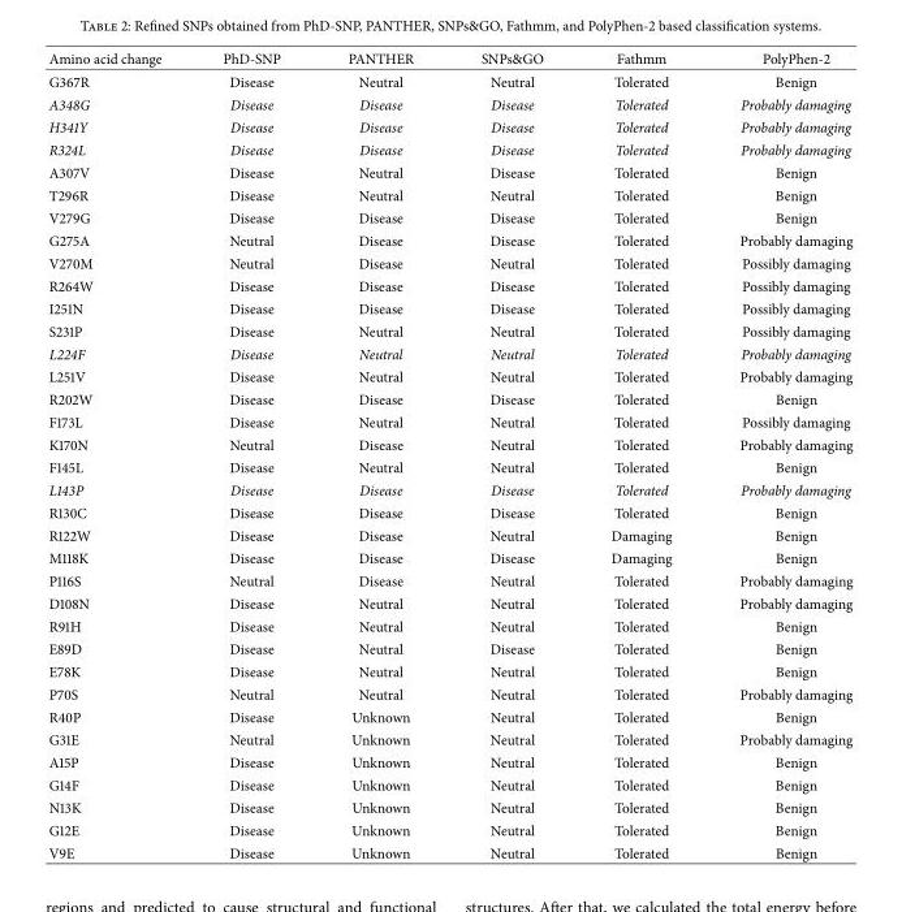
<table><thead><tr><td>Amino acid change</td><td>PhD-SNP</td><td>PANTHER</td><td>SNPs&amp;GO</td><td>Fathmm</td><td>PolyPhen-2</td></tr></thead><tbody><tr><td>G367R</td><td>Disease</td><td>Neutral</td><td>Neutral</td><td>Tolerated</td><td>Benign</td></tr><tr><td>A348G</td><td>Disease</td><td>Disease</td><td>Disease</td><td>Tolerated</td><td>Probably damaging</td></tr><tr><td>H341Y</td><td>Disease</td><td>Disease</td><td>Disease</td><td>Tolerated</td><td>Probably damaging</td></tr><tr><td>R324L</td><td>Disease</td><td>Disease</td><td>Disease</td><td>Tolerated</td><td>Probably damaging</td></tr><tr><td>A307V</td><td>Disease</td><td>Neutral</td><td>Disease</td><td>Tolerated</td><td>Benign</td></tr><tr><td>T296R</td><td>Disease</td><td>Neutral</td><td>Neutral</td><td>Tolerated</td><td>Benign</td></tr><tr><td>V279G</td><td>Disease</td><td>Disease</td><td>Disease</td><td>Tolerated</td><td>Benign</td></tr><tr><td>G275A</td><td>Neutral</td><td>Disease</td><td>Disease</td><td>Tolerated</td><td>Probably damaging</td></tr><tr><td>V270M</td><td>Neutral</td><td>Disease</td><td>Neutral</td><td>Tolerated</td><td>Possibly damaging</td></tr><tr><td>R264W</td><td>Disease</td><td>Disease</td><td>Disease</td><td>Tolerated</td><td>Possibly damaging</td></tr><tr><td>I251N</td><td>Disease</td><td>Disease</td><td>Disease</td><td>Tolerated</td><td>Possibly damaging</td></tr><tr><td>S231P</td><td>Disease</td><td>Neutral</td><td>Neutral</td><td>Tolerated</td><td>Possibly damaging</td></tr><tr><td>L224F</td><td>Disease</td><td>Neutral</td><td>Neutral</td><td>Tolerated</td><td>Probably damaging</td></tr><tr><td>L251V</td><td>Disease</td><td>Neutral</td><td>Neutral</td><td>Tolerated</td><td>Probably damaging</td></tr><tr><td>R202W</td><td>Disease</td><td>Disease</td><td>Disease</td><td>Tolerated</td><td>Benign</td></tr><tr><td>F173L</td><td>Disease</td><td>Neutral</td><td>Neutral</td><td>Tolerated</td><td>Possibly damaging</td></tr><tr><td>K170N</td><td>Neutral</td><td>Disease</td><td>Neutral</td><td>Tolerated</td><td>Probably damaging</td></tr><tr><td>F145L</td><td>Disease</td><td>Neutral</td><td>Neutral</td><td>Tolerated</td><td>Benign</td></tr><tr><td>L143P</td><td>Disease</td><td>Disease</td><td>Disease</td><td>Tolerated</td><td>Probably damaging</td></tr><tr><td>R130C</td><td>Disease</td><td>Disease</td><td>Disease</td><td>Tolerated</td><td>Benign</td></tr><tr><td>R122W</td><td>Disease</td><td>Disease</td><td>Neutral</td><td>Damaging</td><td>Benign</td></tr><tr><td>M118K</td><td>Disease</td><td>Disease</td><td>Disease</td><td>Damaging</td><td>Benign</td></tr><tr><td>P116S</td><td>Neutral</td><td>Disease</td><td>Neutral</td><td>Tolerated</td><td>Probably damaging</td></tr><tr><td>D108N</td><td>Disease</td><td>Neutral</td><td>Neutral</td><td>Tolerated</td><td>Probably damaging</td></tr><tr><td>R91H</td><td>Disease</td><td>Neutral</td><td>Neutral</td><td>Tolerated</td><td>Benign</td></tr><tr><td>E89D</td><td>Disease</td><td>Neutral</td><td>Disease</td><td>Tolerated</td><td>Benign</td></tr><tr><td>E78K</td><td>Disease</td><td>Neutral</td><td>Neutral</td><td>Tolerated</td><td>Benign</td></tr><tr><td>P70S</td><td>Neutral</td><td>Neutral</td><td>Neutral</td><td>Tolerated</td><td>Probably damaging</td></tr><tr><td>R40P</td><td>Disease</td><td>Unknown</td><td>Neutral</td><td>Tolerated</td><td>Benign</td></tr><tr><td>G31E</td><td>Neutral</td><td>Unknown</td><td>Neutral</td><td>Tolerated</td><td>Probably damaging</td></tr><tr><td>A15P</td><td>Disease</td><td>Unknown</td><td>Neutral</td><td>Tolerated</td><td>Benign</td></tr><tr><td>G14F</td><td>Disease</td><td>Unknown</td><td>Neutral</td><td>Tolerated</td><td>Benign</td></tr><tr><td>N13K</td><td>Disease</td><td>Unknown</td><td>Neutral</td><td>Tolerated</td><td>Benign</td></tr><tr><td>G12E</td><td>Disease</td><td>Unknown</td><td>Neutral</td><td>Tolerated</td><td>Benign</td></tr><tr><td>V9E</td><td>Disease</td><td>Unknown</td><td>Neutral</td><td>Tolerated</td><td>Benign</td></tr></tbody></table>